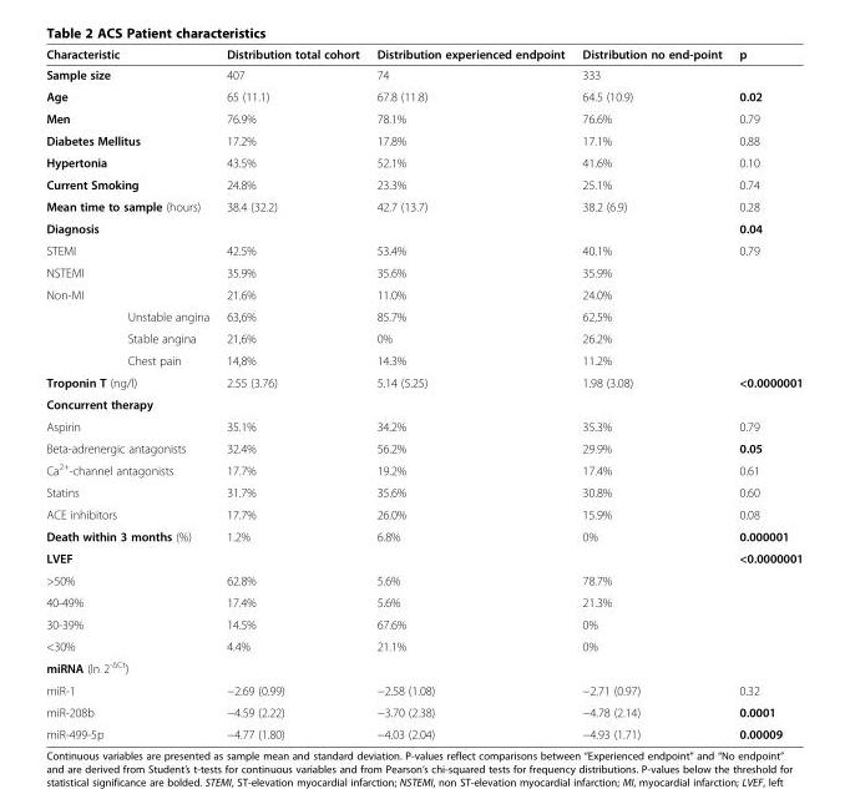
<table><thead><tr><td>Characteristic</td><td>Distribution total cohort</td><td>Distribution experienced endpoint</td><td>Distribution no end-point</td><td>p</td></tr></thead><tbody><tr><td>Sample size</td><td>407</td><td>74</td><td>333</td><td></td></tr><tr><td>Age</td><td>65 (11.1)</td><td>67.8 (11.8)</td><td>64.5 (10.9)</td><td>0.02</td></tr><tr><td>Men</td><td>76.9%</td><td>78.1%</td><td>76.6%</td><td>0.79</td></tr><tr><td>Diabetes Mellitus</td><td>17.2%</td><td>17.8%</td><td>17.1%</td><td>0.88</td></tr><tr><td>Hypertonia</td><td>43.5%</td><td>52.1%</td><td>41.6%</td><td>0.10</td></tr><tr><td>Current Smoking</td><td>24.8%</td><td>23.3%</td><td>25.1%</td><td>0.74</td></tr><tr><td>Mean time to sample (hours)</td><td>38.4 (32.2)</td><td>42.7 (13.7)</td><td>38.2 (6.9)</td><td>0.28</td></tr><tr><td>Diagnosis</td><td></td><td></td><td></td><td>0.04</td></tr><tr><td>STEMI</td><td>42.5%</td><td>53.4%</td><td>40.1%</td><td>0.79</td></tr><tr><td>NSTEMI</td><td>35.9%</td><td>35.6%</td><td>35.9%</td><td></td></tr><tr><td>Non-MI</td><td>21.6%</td><td>11.0%</td><td>24.0%</td><td></td></tr><tr><td>Unstable angina</td><td>63,6%</td><td>85.7%</td><td>62,5%</td><td></td></tr><tr><td>Stable angina</td><td>21,6%</td><td>0%</td><td>26.2%</td><td></td></tr><tr><td>Chest pain</td><td>14,8%</td><td>14.3%</td><td>11.2%</td><td></td></tr><tr><td>Troponin T (ng/l)</td><td>2.55 (3.76)</td><td>5.14 (5.25)</td><td>1.98 (3.08)</td><td>&lt;0.0000001</td></tr><tr><td colspan="5">Concurrent therapy</td></tr><tr><td>Aspirin</td><td>35.1%</td><td>34.2%</td><td>35.3%</td><td>0.79</td></tr><tr><td>Beta-adrenergic antagonists</td><td>32.4%</td><td>56.2%</td><td>29.9%</td><td>0.05</td></tr><tr><td>Ca<sup>2+</sup>-channel antagonists</td><td>17.7%</td><td>19.2%</td><td>17.4%</td><td>0.61</td></tr><tr><td>Statins</td><td>31.7%</td><td>35.6%</td><td>30.8%</td><td>0.60</td></tr><tr><td>ACE inhibitors</td><td>17.7%</td><td>26.0%</td><td>15.9%</td><td>0.08</td></tr><tr><td>Death within 3 months (%)</td><td>1.2%</td><td>6.8%</td><td>0%</td><td>0.000001</td></tr><tr><td>LVEF</td><td></td><td></td><td></td><td>&lt;0.0000001</td></tr><tr><td>&gt;50%</td><td>62.8%</td><td>5.6%</td><td>78.7%</td><td></td></tr><tr><td>40-49%</td><td>17.4%</td><td>5.6%</td><td>21.3%</td><td></td></tr><tr><td>30-39%</td><td>14.5%</td><td>67.6%</td><td>0%</td><td></td></tr><tr><td>&lt;30%</td><td>4.4%</td><td>21.1%</td><td>0%</td><td></td></tr><tr><td colspan="5">miRNA (ln 2-ΔCt)</td></tr><tr><td>miR-1</td><td>−2.69 (0.99)</td><td>−2.58 (1.08)</td><td>−2.71 (0.97)</td><td>0.32</td></tr><tr><td>miR-208b</td><td>−4.59 (2.22)</td><td>−3.70 (2.38)</td><td>−4.78 (2.14)</td><td>0.0001</td></tr><tr><td>miR-499-5p</td><td>−4.77 (1.80)</td><td>−4.03 (2.04)</td><td>−4.93 (1.71)</td><td>0.00009</td></tr></tbody></table>